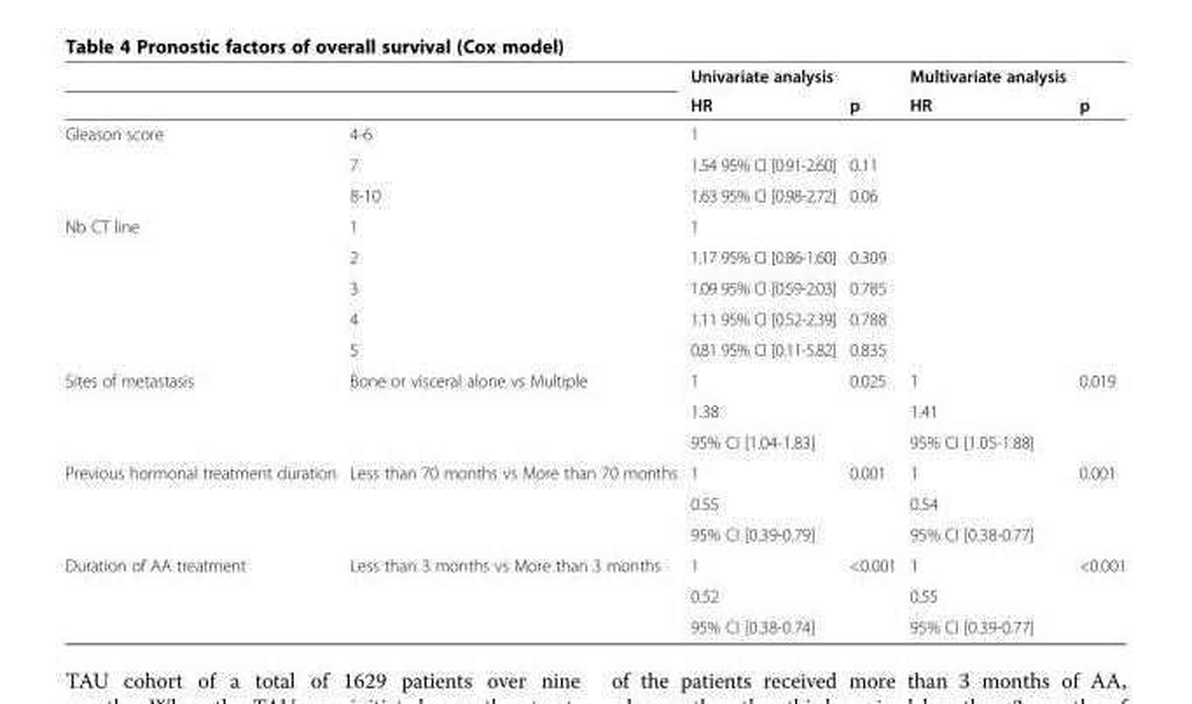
<table><thead><tr><td rowspan="2"></td><td rowspan="2"></td><td rowspan="2">Univariate analysis HR</td><td rowspan="2">p</td><td rowspan="2">Multivariate analysis HR</td><td rowspan="2">p</td></tr><tr></tr></thead><tbody><tr><td rowspan="3">Gleason score</td><td>4-6</td><td>1</td><td></td><td rowspan="3"></td><td rowspan="3"></td></tr><tr><td>7</td><td>1.54 95% CI [0.91-2.60]</td><td>0.11</td></tr><tr><td>8-10</td><td>1.63 95% CI [0.98-2.72]</td><td>0.06</td></tr><tr><td rowspan="5">Nb CT line</td><td>1</td><td>1</td><td></td><td rowspan="5"></td><td rowspan="5"></td></tr><tr><td>2</td><td>1.17 95% CI [0.86-1.60]</td><td>0.309</td></tr><tr><td>3</td><td>1.09 95% CI [0.59-2.03]</td><td>0.785</td></tr><tr><td>4</td><td>1.11 95% CI [0.52-2.39]</td><td>0.788</td></tr><tr><td>5</td><td>0.81 95% CI [0.11-5.82]</td><td>0.835</td></tr><tr><td rowspan="3">Sites of metastasis</td><td rowspan="3">Bone or visceral alone vs Multiple</td><td>1</td><td>0.025</td><td>1</td><td rowspan="3">0.019</td></tr><tr><td>1.38</td><td></td><td>1.41</td></tr><tr><td>95% CI [1.04-1.83]</td><td></td><td>95% CI [1.05-1.88]</td></tr><tr><td rowspan="3">Previous hormonal treatment duration</td><td rowspan="3">Less than 70 months vs More than 70 months</td><td>1</td><td>0.001</td><td>1</td><td>0.001</td></tr><tr><td>0.55</td><td></td><td>0.54</td><td rowspan="2"></td></tr><tr><td>95% CI [0.39-0.79]</td><td></td><td>95% CI [0.38-0.77]</td></tr><tr><td rowspan="3">Duration of AA treatment</td><td rowspan="3">Less than 3 months vs More than 3 months</td><td>1</td><td>&lt;0.001</td><td>1</td><td>&lt;0.001</td></tr><tr><td>0.52</td><td></td><td>0.55</td><td></td></tr><tr><td>95% CI [0.38-0.74]</td><td></td><td>95% CI [0.39-0.77]</td><td></td></tr></tbody></table>